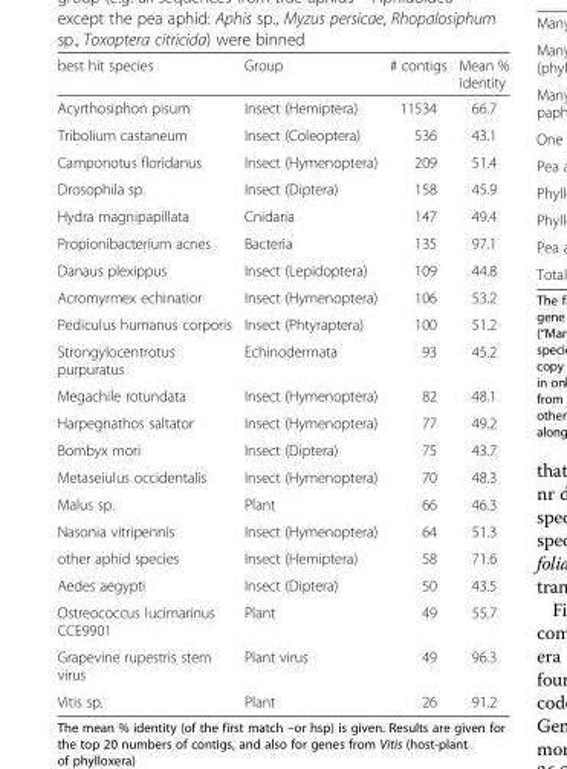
<table><thead><tr><td>best hit species</td><td>Group</td><td># contigs</td><td>Mean % identity</td></tr></thead><tbody><tr><td>Acyrthosiphon pisum</td><td>Insect (Hemiptera)</td><td>11534</td><td>66.7</td></tr><tr><td>Tribolium castaneum</td><td>Insect (Coleoptera)</td><td>536</td><td>43.1</td></tr><tr><td>Camponotus floridanus</td><td>Insect (Hymenoptera)</td><td>209</td><td>51.4</td></tr><tr><td>Drosophila sp.</td><td>Insect (Diptera)</td><td>158</td><td>45.9</td></tr><tr><td>Hydra magnipapillata</td><td>Cnidaria</td><td>147</td><td>49.4</td></tr><tr><td>Propionibacterium acnes</td><td>Bacteria</td><td>135</td><td>97.1</td></tr><tr><td>Danaus plexippus</td><td>Insect (Lepidoptera)</td><td>109</td><td>44.8</td></tr><tr><td>Acromyrmex echinatior</td><td>Insect (Hymenoptera)</td><td>106</td><td>53.2</td></tr><tr><td>Pediculus humanus corporis</td><td>Insect (Phtyraptera)</td><td>100</td><td>51.2</td></tr><tr><td>Strongylocentrotus purpuratus</td><td>Echinodermata</td><td>93</td><td>45.2</td></tr><tr><td>Megachile rotundata</td><td>Insect (Hymenoptera)</td><td>82</td><td>48.1</td></tr><tr><td>Harpegnathos saltator</td><td>Insect (Hymenoptera)</td><td>77</td><td>49.2</td></tr><tr><td>Bombyx mori</td><td>Insect (Diptera)</td><td>75</td><td>43.7</td></tr><tr><td>Metaseiulus occidentalis</td><td>Insect (Hymenoptera)</td><td>70</td><td>48.3</td></tr><tr><td>Malus sp.</td><td>Plant</td><td>66</td><td>46.3</td></tr><tr><td>Nasonia vitripennis</td><td>Insect (Hymenoptera)</td><td>64</td><td>51.3</td></tr><tr><td>other aphid species</td><td>Insect (Hemiptera)</td><td>58</td><td>71.6</td></tr><tr><td>Aedes aegypti</td><td>Insect (Diptera)</td><td>50</td><td>43.5</td></tr><tr><td>Ostreococcus lucimarinus CCE9901</td><td>Plant</td><td>49</td><td>55.7</td></tr><tr><td>Grapevine rupestris stem virus</td><td>Plant virus</td><td>49</td><td>96.3</td></tr><tr><td>Vitis sp.</td><td>Plant</td><td>26</td><td>91.2</td></tr></tbody></table>